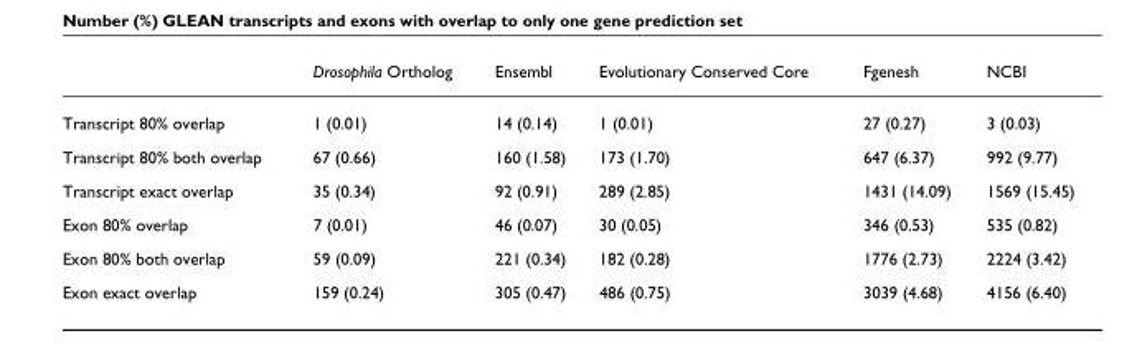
<table><thead><tr><td></td><td>Drosophila Ortholog</td><td>Ensembl</td><td>Evolutionary Conserved Core</td><td>Fgenesh</td><td>NCBI</td></tr></thead><tbody><tr><td>Transcript 80% overlap</td><td>1 (0.01)</td><td>14 (0.14)</td><td>1 (0.01)</td><td>27 (0.27)</td><td>3 (0.03)</td></tr><tr><td>Transcript 80% both overlap</td><td>67 (0.66)</td><td>160 (1.58)</td><td>173 (1.70)</td><td>647 (6.37)</td><td>992 (9.77)</td></tr><tr><td>Transcript exact overlap</td><td>35 (0.34)</td><td>92 (0.91)</td><td>289 (2.85)</td><td>1431 (14.09)</td><td>1569 (15.45)</td></tr><tr><td>Exon 80% overlap</td><td>7 (0.01)</td><td>46 (0.07)</td><td>30 (0.05)</td><td>346 (0.53)</td><td>535 (0.82)</td></tr><tr><td>Exon 80% both overlap</td><td>59 (0.09)</td><td>221 (0.34)</td><td>182 (0.28)</td><td>1776 (2.73)</td><td>2224 (3.42)</td></tr><tr><td>Exon exact overlap</td><td>159 (0.24)</td><td>305 (0.47)</td><td>486 (0.75)</td><td>3039 (4.68)</td><td>4156 (6.40)</td></tr></tbody></table>